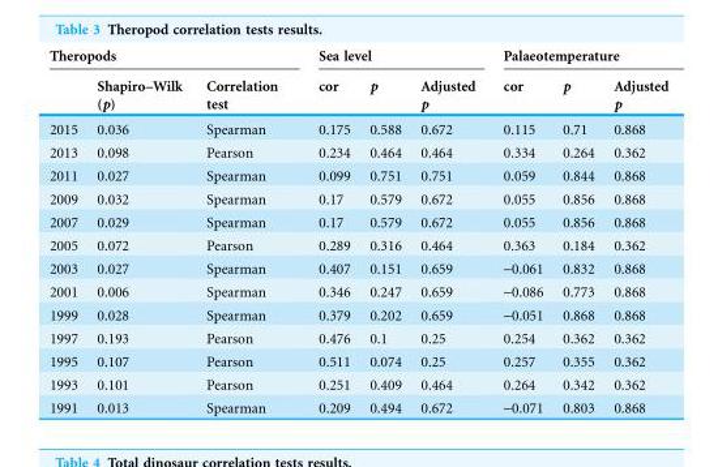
<table><thead><tr><td colspan="3">Theropods</td><td colspan="3">Sea level</td><td colspan="3">Palaeotemperature</td></tr><tr><td></td><td>Shapiro–Wilk (p)</td><td>Correlation test</td><td>cor</td><td>p</td><td>Adjusted p</td><td>cor</td><td>p</td><td>Adjusted p</td></tr></thead><tbody><tr><td>2015</td><td>0.036</td><td>Spearman</td><td>0.175</td><td>0.588</td><td>0.672</td><td>0.115</td><td>0.71</td><td>0.868</td></tr><tr><td>2013</td><td>0.098</td><td>Pearson</td><td>0.234</td><td>0.464</td><td>0.464</td><td>0.334</td><td>0.264</td><td>0.362</td></tr><tr><td>2011</td><td>0.027</td><td>Spearman</td><td>0.099</td><td>0.751</td><td>0.751</td><td>0.059</td><td>0.844</td><td>0.868</td></tr><tr><td>2009</td><td>0.032</td><td>Spearman</td><td>0.17</td><td>0.579</td><td>0.672</td><td>0.055</td><td>0.856</td><td>0.868</td></tr><tr><td>2007</td><td>0.029</td><td>Spearman</td><td>0.17</td><td>0.579</td><td>0.672</td><td>0.055</td><td>0.856</td><td>0.868</td></tr><tr><td>2005</td><td>0.072</td><td>Pearson</td><td>0.289</td><td>0.316</td><td>0.464</td><td>0.363</td><td>0.184</td><td>0.362</td></tr><tr><td>2003</td><td>0.027</td><td>Spearman</td><td>0.407</td><td>0.151</td><td>0.659</td><td>-0.061</td><td>0.832</td><td>0.868</td></tr><tr><td>2001</td><td>0.006</td><td>Spearman</td><td>0.346</td><td>0.247</td><td>0.659</td><td>-0.086</td><td>0.773</td><td>0.868</td></tr><tr><td>1999</td><td>0.028</td><td>Spearman</td><td>0.379</td><td>0.202</td><td>0.659</td><td>-0.051</td><td>0.868</td><td>0.868</td></tr><tr><td>1997</td><td>0.193</td><td>Pearson</td><td>0.476</td><td>0.1</td><td>0.25</td><td>0.254</td><td>0.362</td><td>0.362</td></tr><tr><td>1995</td><td>0.107</td><td>Pearson</td><td>0.511</td><td>0.074</td><td>0.25</td><td>0.257</td><td>0.355</td><td>0.362</td></tr><tr><td>1993</td><td>0.101</td><td>Pearson</td><td>0.251</td><td>0.409</td><td>0.464</td><td>0.264</td><td>0.342</td><td>0.362</td></tr><tr><td>1991</td><td>0.013</td><td>Spearman</td><td>0.209</td><td>0.494</td><td>0.672</td><td>-0.071</td><td>0.803</td><td>0.868</td></tr></tbody></table>